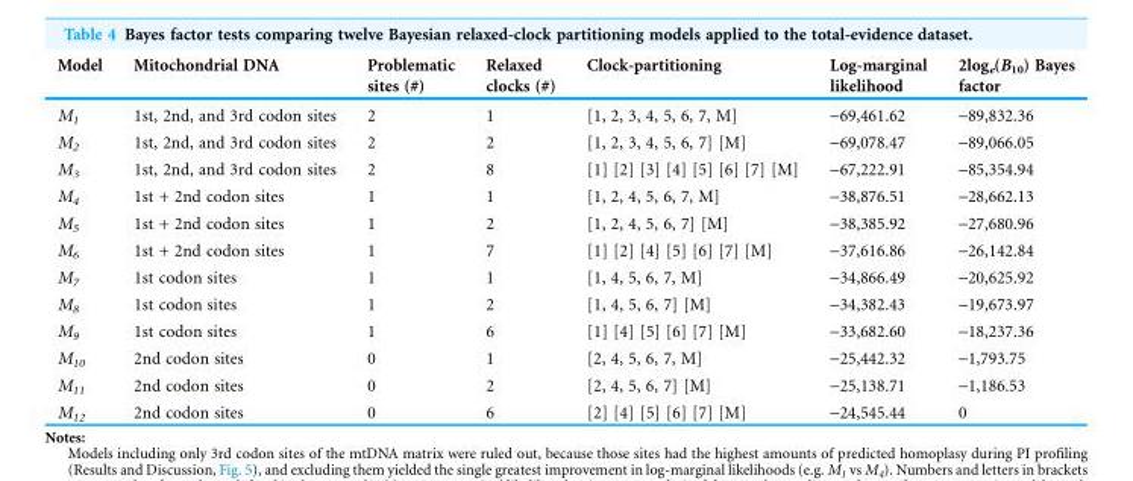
<table><thead><tr><td>Model</td><td>Mitochondrial DNA</td><td>Problematic sites (#)</td><td>Relaxed clocks (#)</td><td>Clock-partitioning</td><td>Log-marginal likelihood</td><td>2log<sub>e</sub>(B<sub>10</sub>) Bayes factor</td></tr></thead><tbody><tr><td>M<sub>1</sub></td><td>1st, 2nd, and 3rd codon sites</td><td>2</td><td>1</td><td>[1, 2, 3, 4, 5, 6, 7, M]</td><td>-69,461.62</td><td>-89,832.36</td></tr><tr><td>M<sub>2</sub></td><td>1st, 2nd, and 3rd codon sites</td><td>2</td><td>2</td><td>[1, 2, 3, 4, 5, 6, 7] [M]</td><td>-69,078.47</td><td>-89,066.05</td></tr><tr><td>M<sub>3</sub></td><td>1st, 2nd, and 3rd codon sites</td><td>2</td><td>8</td><td>[1] [2] [3] [4] [5] [6] [7] [M]</td><td>-67,222.91</td><td>-85,354.94</td></tr><tr><td>M<sub>4</sub></td><td>1st + 2nd codon sites</td><td>1</td><td>1</td><td>[1, 2, 4, 5, 6, 7, M]</td><td>-38,876.51</td><td>-28,662.13</td></tr><tr><td>M<sub>5</sub></td><td>1st + 2nd codon sites</td><td>1</td><td>2</td><td>[1, 2, 4, 5, 6, 7] [M]</td><td>-38,385.92</td><td>-27,680.96</td></tr><tr><td>M<sub>6</sub></td><td>1st + 2nd codon sites</td><td>1</td><td>7</td><td>[1] [2] [4] [5] [6] [7] [M]</td><td>-37,616.86</td><td>-26,142.84</td></tr><tr><td>M<sub>7</sub></td><td>1st codon sites</td><td>1</td><td>1</td><td>[1, 4, 5, 6, 7, M]</td><td>-34,866.49</td><td>-20,625.92</td></tr><tr><td>M<sub>8</sub></td><td>1st codon sites</td><td>1</td><td>2</td><td>[1, 4, 5, 6, 7] [M]</td><td>-34,382.43</td><td>-19,673.97</td></tr><tr><td>M<sub>9</sub></td><td>1st codon sites</td><td>1</td><td>6</td><td>[1] [4] [5] [6] [7] [M]</td><td>-33,682.60</td><td>-18,237.36</td></tr><tr><td>M<sub>10</sub></td><td>2nd codon sites</td><td>0</td><td>1</td><td>[2, 4, 5, 6, 7, M]</td><td>-25,442.32</td><td>-1,793.75</td></tr><tr><td>M<sub>11</sub></td><td>2nd codon sites</td><td>0</td><td>2</td><td>[2, 4, 5, 6, 7] [M]</td><td>-25,138.71</td><td>-1,186.53</td></tr><tr><td>M<sub>12</sub></td><td>2nd codon sites</td><td>0</td><td>6</td><td>[2] [4] [5] [6] [7] [M]</td><td>-24,545.44</td><td>0</td></tr></tbody></table>